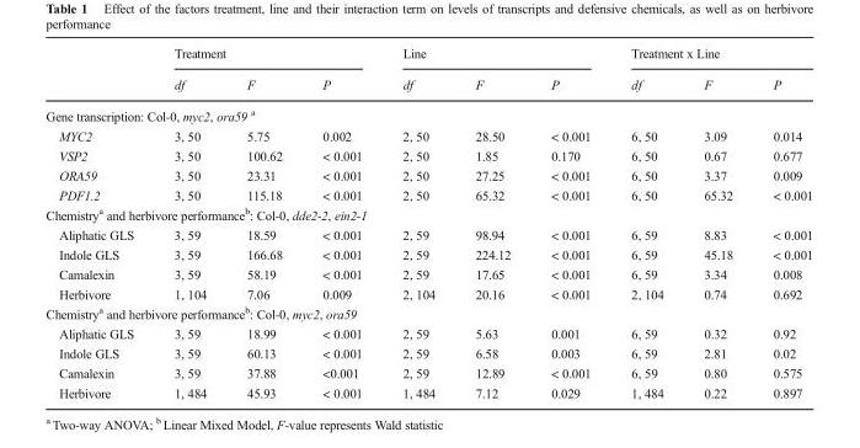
<table><thead><tr><td rowspan="2"></td><td colspan="3">Treatment</td><td colspan="3">Line</td><td colspan="3">Treatment x Line</td></tr><tr><td>df</td><td>F</td><td>P</td><td>df</td><td>F</td><td>P</td><td>df</td><td>F</td><td>P</td></tr></thead><tbody><tr><td colspan="10">Gene transcription: Col-0, myc2, ora59 <sup>a</sup></td></tr><tr><td>MYC2</td><td>3, 50</td><td>5.75</td><td>0.002</td><td>2, 50</td><td>28.50</td><td>&lt; 0.001</td><td>6, 50</td><td>3.09</td><td>0.014</td></tr><tr><td>VSP2</td><td>3, 50</td><td>100.62</td><td>&lt; 0.001</td><td>2, 50</td><td>1.85</td><td>0.170</td><td>6, 50</td><td>0.67</td><td>0.677</td></tr><tr><td>ORA59</td><td>3, 50</td><td>23.31</td><td>&lt; 0.001</td><td>2, 50</td><td>27.25</td><td>&lt; 0.001</td><td>6, 50</td><td>3.37</td><td>0.009</td></tr><tr><td>PDF1.2</td><td>3, 50</td><td>115.18</td><td>&lt; 0.001</td><td>2, 50</td><td>65.32</td><td>&lt; 0.001</td><td>6, 50</td><td>65.32</td><td>&lt; 0.001</td></tr><tr><td colspan="10">Chemistry<sup>a</sup> and herbivore performance<sup>b</sup>: Col-0, dde2-2, ein2-1</td></tr><tr><td>Aliphatic GLS</td><td>3, 59</td><td>18.59</td><td>&lt; 0.001</td><td>2, 59</td><td>98.94</td><td>&lt; 0.001</td><td>6, 59</td><td>8.83</td><td>&lt; 0.001</td></tr><tr><td>Indole GLS</td><td>3, 59</td><td>166.68</td><td>&lt; 0.001</td><td>2, 59</td><td>224.12</td><td>&lt; 0.001</td><td>6, 59</td><td>45.18</td><td>&lt; 0.001</td></tr><tr><td>Camalexin</td><td>3, 59</td><td>58.19</td><td>&lt; 0.001</td><td>2, 59</td><td>17.65</td><td>&lt; 0.001</td><td>6, 59</td><td>3.34</td><td>0.008</td></tr><tr><td>Herbivore</td><td>1, 104</td><td>7.06</td><td>0.009</td><td>2, 104</td><td>20.16</td><td>&lt; 0.001</td><td>2, 104</td><td>0.74</td><td>0.692</td></tr><tr><td colspan="10">Chemistry<sup>a</sup> and herbivore performance<sup>b</sup>: Col-0, myc2, ora59</td></tr><tr><td>Aliphatic GLS</td><td>3, 59</td><td>18.99</td><td>&lt; 0.001</td><td>2, 59</td><td>5.63</td><td>0.001</td><td>6, 59</td><td>0.32</td><td>0.92</td></tr><tr><td>Indole GLS</td><td>3, 59</td><td>60.13</td><td>&lt; 0.001</td><td>2, 59</td><td>6.58</td><td>0.003</td><td>6, 59</td><td>2.81</td><td>0.02</td></tr><tr><td>Camalexin</td><td>3, 59</td><td>37.88</td><td>&lt;0.001</td><td>2, 59</td><td>12.89</td><td>&lt; 0.001</td><td>6, 59</td><td>0.80</td><td>0.575</td></tr><tr><td>Herbivore</td><td>1, 484</td><td>45.93</td><td>&lt; 0.001</td><td>1, 484</td><td>7.12</td><td>0.029</td><td>1, 484</td><td>0.22</td><td>0.897</td></tr></tbody></table>